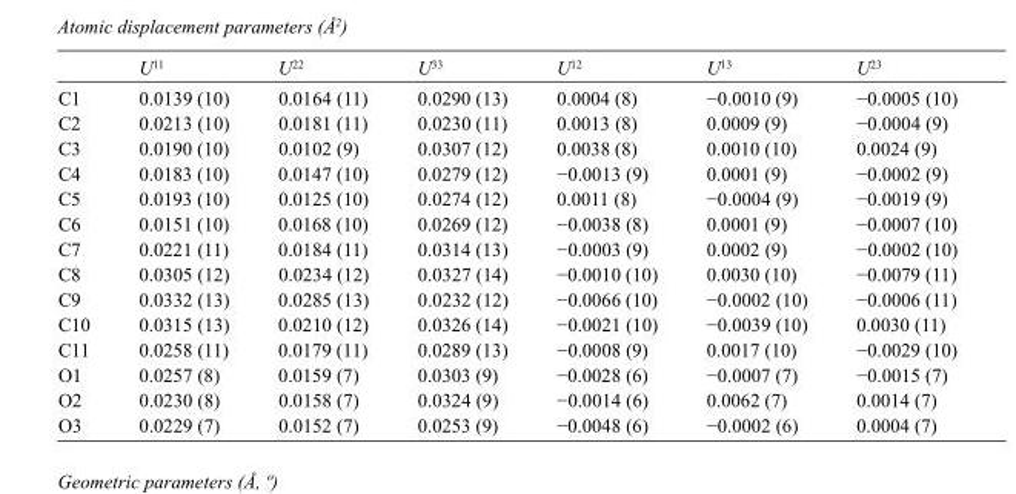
<table><thead><tr><td></td><td>U<sup>11</sup></td><td>U<sup>22</sup></td><td>U<sup>33</sup></td><td>U<sup>12</sup></td><td>U<sup>13</sup></td><td>U<sup>23</sup></td></tr></thead><tbody><tr><td>C1</td><td>0.0139 (10)</td><td>0.0164 (11)</td><td>0.0290 (13)</td><td>0.0004 (8)</td><td>−0.0010 (9)</td><td>−0.0005 (10)</td></tr><tr><td>C2</td><td>0.0213 (10)</td><td>0.0181 (11)</td><td>0.0230 (11)</td><td>0.0013 (8)</td><td>0.0009 (9)</td><td>−0.0004 (9)</td></tr><tr><td>C3</td><td>0.0190 (10)</td><td>0.0102 (9)</td><td>0.0307 (12)</td><td>0.0038 (8)</td><td>0.0010 (10)</td><td>0.0024 (9)</td></tr><tr><td>C4</td><td>0.0183 (10)</td><td>0.0147 (10)</td><td>0.0279 (12)</td><td>−0.0013 (9)</td><td>0.0001 (9)</td><td>−0.0002 (9)</td></tr><tr><td>C5</td><td>0.0193 (10)</td><td>0.0125 (10)</td><td>0.0274 (12)</td><td>0.0011 (8)</td><td>−0.0004 (9)</td><td>−0.0019 (9)</td></tr><tr><td>C6</td><td>0.0151 (10)</td><td>0.0168 (10)</td><td>0.0269 (12)</td><td>−0.0038 (8)</td><td>0.0001 (9)</td><td>−0.0007 (10)</td></tr><tr><td>C7</td><td>0.0221 (11)</td><td>0.0184 (11)</td><td>0.0314 (13)</td><td>−0.0003 (9)</td><td>0.0002 (9)</td><td>−0.0002 (10)</td></tr><tr><td>C8</td><td>0.0305 (12)</td><td>0.0234 (12)</td><td>0.0327 (14)</td><td>−0.0010 (10)</td><td>0.0030 (10)</td><td>−0.0079 (11)</td></tr><tr><td>C9</td><td>0.0332 (13)</td><td>0.0285 (13)</td><td>0.0232 (12)</td><td>−0.0066 (10)</td><td>−0.0002 (10)</td><td>−0.0006 (11)</td></tr><tr><td>C10</td><td>0.0315 (13)</td><td>0.0210 (12)</td><td>0.0326 (14)</td><td>−0.0021 (10)</td><td>−0.0039 (10)</td><td>0.0030 (11)</td></tr><tr><td>C11</td><td>0.0258 (11)</td><td>0.0179 (11)</td><td>0.0289 (13)</td><td>−0.0008 (9)</td><td>0.0017 (10)</td><td>−0.0029 (10)</td></tr><tr><td>O1</td><td>0.0257 (8)</td><td>0.0159 (7)</td><td>0.0303 (9)</td><td>−0.0028 (6)</td><td>−0.0007 (7)</td><td>−0.0015 (7)</td></tr><tr><td>O2</td><td>0.0230 (8)</td><td>0.0158 (7)</td><td>0.0324 (9)</td><td>−0.0014 (6)</td><td>0.0062 (7)</td><td>0.0014 (7)</td></tr><tr><td>O3</td><td>0.0229 (7)</td><td>0.0152 (7)</td><td>0.0253 (9)</td><td>−0.0048 (6)</td><td>−0.0002 (6)</td><td>0.0004 (7)</td></tr></tbody></table>